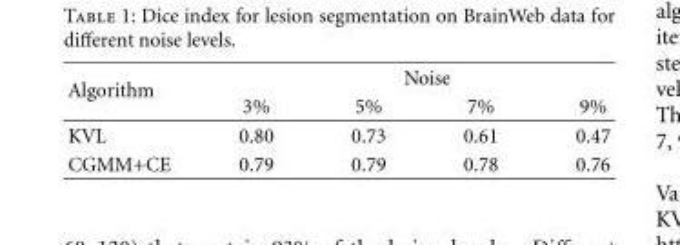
<table><thead><tr><td rowspan="2">Algorithm</td><td colspan="4">Noise</td></tr><tr><td>3%</td><td>5%</td><td>7%</td><td>9%</td></tr></thead><tbody><tr><td>KVL</td><td>0.80</td><td>0.73</td><td>0.61</td><td>0.47</td></tr><tr><td>CGMM+CE</td><td>0.79</td><td>0.79</td><td>0.78</td><td>0.76</td></tr></tbody></table>